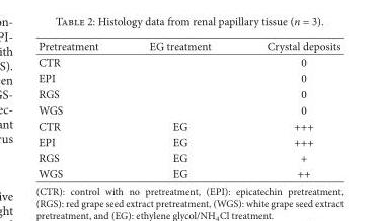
<table><thead><tr><td>Pretreatment</td><td>EG treatment</td><td>Crystal deposits</td></tr></thead><tbody><tr><td>CTR</td><td></td><td>0</td></tr><tr><td>EPI</td><td></td><td>0</td></tr><tr><td>RGS</td><td></td><td>0</td></tr><tr><td>WGS</td><td></td><td>0</td></tr><tr><td>CTR</td><td>EG</td><td>+++</td></tr><tr><td>EPI</td><td>EG</td><td>+++</td></tr><tr><td>RGS</td><td>EG</td><td>+</td></tr><tr><td>WGS</td><td>EG</td><td>++</td></tr></tbody></table>